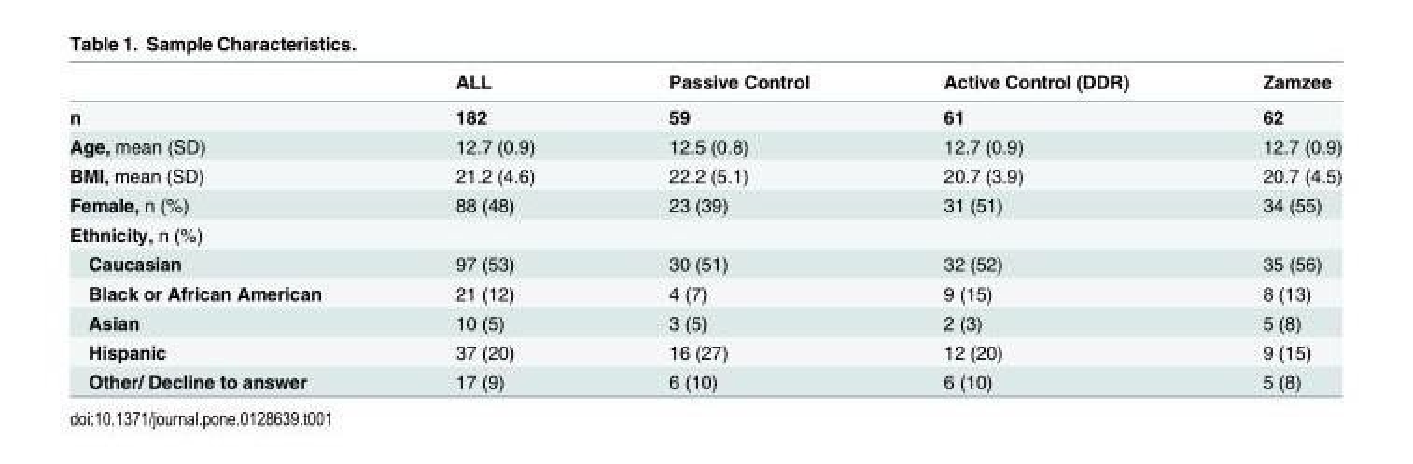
<table><thead><tr><td></td><td>ALL</td><td>Passive Control</td><td>Active Control (DDR)</td><td>Zamzee</td></tr></thead><tbody><tr><td>n</td><td>182</td><td>59</td><td>61</td><td>62</td></tr><tr><td>Age, mean (SD)</td><td>12.7 (0.9)</td><td>12.5 (0.8)</td><td>12.7 (0.9)</td><td>12.7 (0.9)</td></tr><tr><td>BMI, mean (SD)</td><td>21.2 (4.6)</td><td>22.2 (5.1)</td><td>20.7 (3.9)</td><td>20.7 (4.5)</td></tr><tr><td>Female, n (%)</td><td>88 (48)</td><td>23 (39)</td><td>31 (51)</td><td>34 (55)</td></tr><tr><td colspan="5">Ethnicity, n (%)</td></tr><tr><td>Caucasian</td><td>97 (53)</td><td>30 (51)</td><td>32 (52)</td><td>35 (56)</td></tr><tr><td>Black or African American</td><td>21 (12)</td><td>4 (7)</td><td>9 (15)</td><td>8 (13)</td></tr><tr><td>Asian</td><td>10 (5)</td><td>3 (5)</td><td>2 (3)</td><td>5 (8)</td></tr><tr><td>Hispanic</td><td>37 (20)</td><td>16 (27)</td><td>12 (20)</td><td>9 (15)</td></tr><tr><td>Other/ Decline to answer</td><td>17 (9)</td><td>6 (10)</td><td>6 (10)</td><td>5 (8)</td></tr></tbody></table>